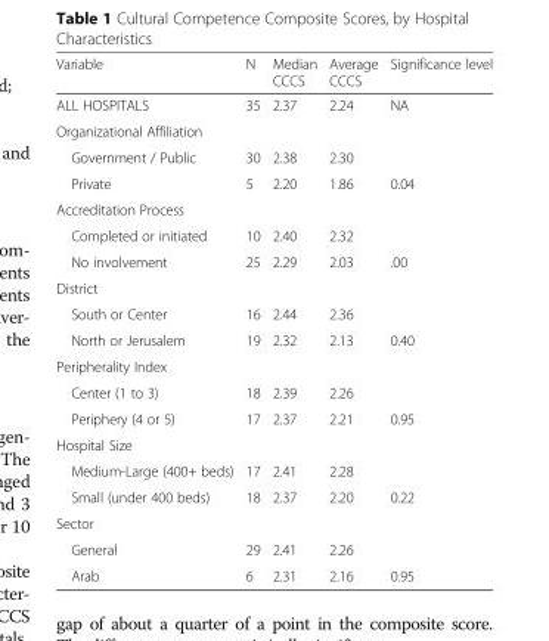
<table><thead><tr><td>Variable</td><td>N</td><td>Median CCCS</td><td>Average CCCS</td><td>Significance level</td></tr></thead><tbody><tr><td>ALL HOSPITALS</td><td>35</td><td>2.37</td><td>2.24</td><td>NA</td></tr><tr><td colspan="5">Organizational Affiliation</td></tr><tr><td>Government / Public</td><td>30</td><td>2.38</td><td>2.30</td><td></td></tr><tr><td>Private</td><td>5</td><td>2.20</td><td>1.86</td><td>0.04</td></tr><tr><td colspan="5">Accreditation Process</td></tr><tr><td>Completed or initiated</td><td>10</td><td>2.40</td><td>2.32</td><td></td></tr><tr><td>No involvement</td><td>25</td><td>2.29</td><td>2.03</td><td>.00</td></tr><tr><td colspan="5">District</td></tr><tr><td>South or Center</td><td>16</td><td>2.44</td><td>2.36</td><td></td></tr><tr><td>North or Jerusalem</td><td>19</td><td>2.32</td><td>2.13</td><td>0.40</td></tr><tr><td colspan="5">Peripherality Index</td></tr><tr><td>Center (1 to 3)</td><td>18</td><td>2.39</td><td>2.26</td><td></td></tr><tr><td>Periphery (4 or 5)</td><td>17</td><td>2.37</td><td>2.21</td><td>0.95</td></tr><tr><td colspan="5">Hospital Size</td></tr><tr><td>Medium-Large (400+ beds)</td><td>17</td><td>2.41</td><td>2.28</td><td></td></tr><tr><td>Small (under 400 beds)</td><td>18</td><td>2.37</td><td>2.20</td><td>0.22</td></tr><tr><td colspan="5">Sector</td></tr><tr><td>General</td><td>29</td><td>2.41</td><td>2.26</td><td></td></tr><tr><td>Arab</td><td>6</td><td>2.31</td><td>2.16</td><td>0.95</td></tr></tbody></table>